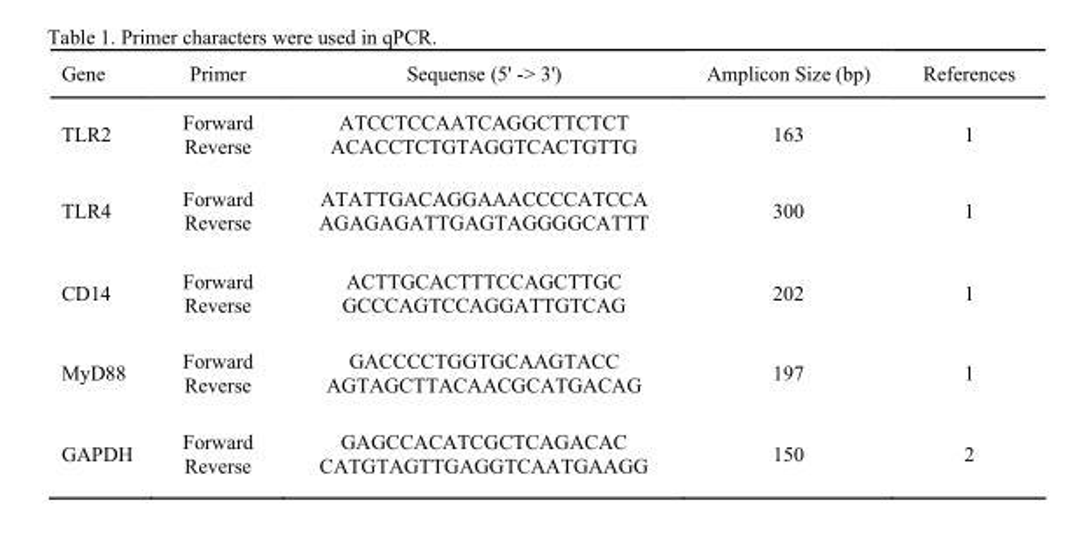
<table><thead><tr><td>Gene</td><td>Primer</td><td>Sequense (5&#x27; -&gt; 3&#x27;)</td><td>Amplicon Size (bp)</td><td>References</td></tr></thead><tbody><tr><td rowspan="2">TLR2</td><td>Forward</td><td>ATCCTCCAATCAGGCTTCTCT</td><td rowspan="2">163</td><td rowspan="2">1</td></tr><tr><td>Reverse</td><td>ACACCTCTGTAGGTCACTGTTG</td></tr><tr><td rowspan="2">TLR4</td><td>Forward</td><td>ATATTGACAGGAAACCCCATCCA</td><td rowspan="2">300</td><td rowspan="2">1</td></tr><tr><td>Reverse</td><td>AGAGAGATTGAGTAGGGGCATTT</td></tr><tr><td rowspan="2">CD14</td><td>Forward</td><td>ACTTGCACTTTCCAGCTTGC</td><td rowspan="2">202</td><td rowspan="2">1</td></tr><tr><td>Reverse</td><td>GCCCAGTCCAGGATTGTCAG</td></tr><tr><td rowspan="2">MyD88</td><td>Forward</td><td>GACCCCTGGTGCAAGTACC</td><td rowspan="2">197</td><td rowspan="2">1</td></tr><tr><td>Reverse</td><td>AGTAGCTTACAACGCATGACAG</td></tr><tr><td rowspan="2">GAPDH</td><td>Forward</td><td>GAGCCACATCGCTCAGACAC</td><td rowspan="2">150</td><td rowspan="2">2</td></tr><tr><td>Reverse</td><td>CATGTAGTTGAGGTCAATGAAGG</td></tr></tbody></table>